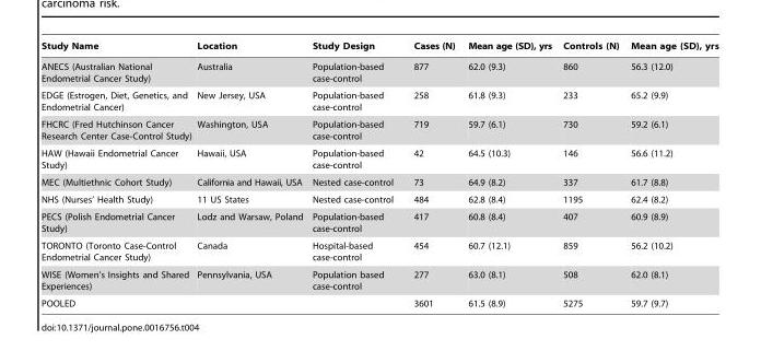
<table><thead><tr><td>Study Name</td><td>Location</td><td>Study Design</td><td>Cases (N)</td><td>Mean age (SD), yrs</td><td>Controls (N)</td><td>Mean age (SD), yrs</td></tr></thead><tbody><tr><td>ANECS (Australian National Endometrial Cancer Study)</td><td>Australia</td><td>Population-based case-control</td><td>877</td><td>62.0 (9.3)</td><td>860</td><td>56.3 (12.0)</td></tr><tr><td>EDGE (Estrogen, Diet, Genetics, and Endometrial Cancer)</td><td>New Jersey, USA</td><td>Population-based case-control</td><td>258</td><td>61.8 (9.3)</td><td>233</td><td>65.2 (9.9)</td></tr><tr><td>FHCRC (Fred Hutchinson Cancer Research Center Case-Control Study)</td><td>Washington, USA</td><td>Population-based case-control</td><td>719</td><td>59.7 (6.1)</td><td>730</td><td>59.2 (6.1)</td></tr><tr><td>HAW (Hawaii Endometrial Cancer Study)</td><td>Hawaii, USA</td><td>Population-based case-control</td><td>42</td><td>64.5 (10.3)</td><td>146</td><td>56.6 (11.2)</td></tr><tr><td>MEC (Multiethnic Cohort Study)</td><td>California and Hawaii, USA</td><td>Nested case-control</td><td>73</td><td>64.9 (8.2)</td><td>337</td><td>61.7 (8.8)</td></tr><tr><td>NHS (Nurses’ Health Study)</td><td>11 US States</td><td>Nested case-control</td><td>484</td><td>62.8 (8.4)</td><td>1195</td><td>62.4 (8.2)</td></tr><tr><td>PECS (Polish Endometrial Cancer Study)</td><td>Lodz and Warsaw, Poland</td><td>Population-based case-control</td><td>417</td><td>60.8 (8.4)</td><td>407</td><td>60.9 (8.9)</td></tr><tr><td>TORONTO (Toronto Case-Control Endometrial Cancer Study)</td><td>Canada</td><td>Hospital-based case-control</td><td>454</td><td>60.7 (12.1)</td><td>859</td><td>56.2 (10.2)</td></tr><tr><td>WISE (Women’s Insights and Shared Experiences)</td><td>Pennsylvania, USA</td><td>Population based case-control</td><td>277</td><td>63.0 (8.1)</td><td>508</td><td>62.0 (8.1)</td></tr><tr><td>POOLED</td><td></td><td></td><td>3601</td><td>61.5 (8.9)</td><td>5275</td><td>59.7 (9.7)</td></tr></tbody></table>